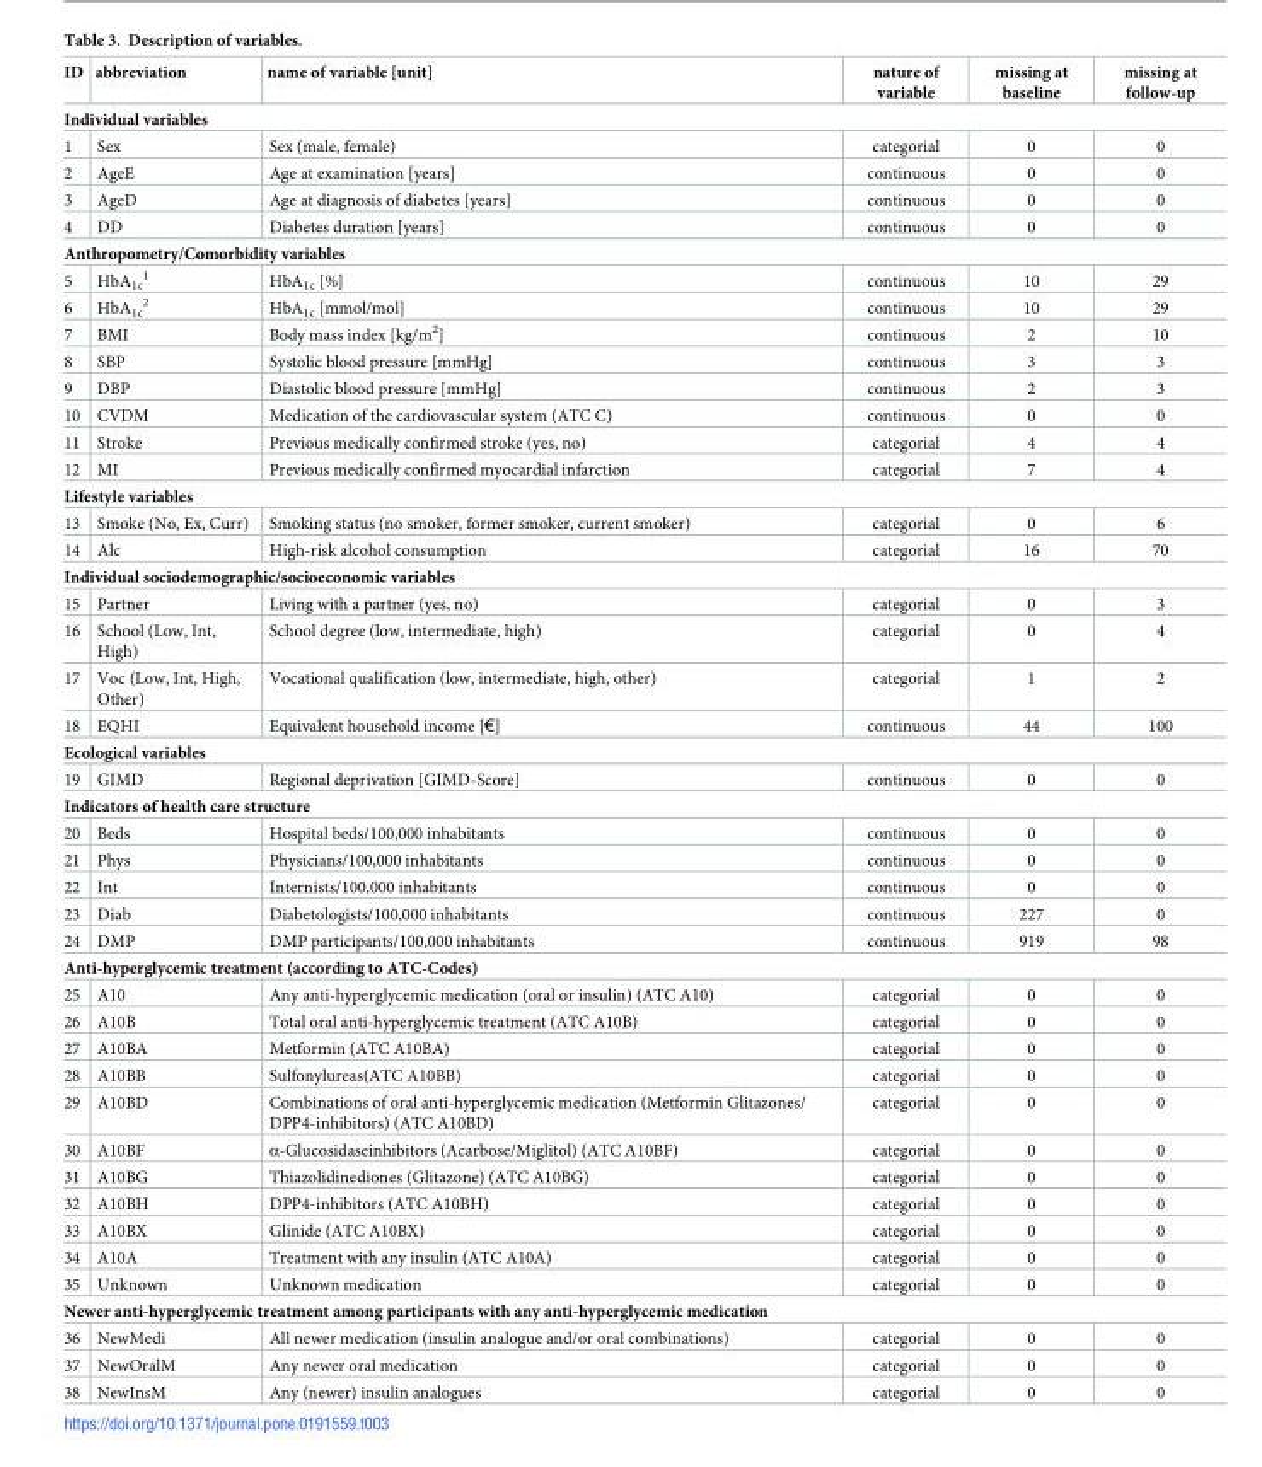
<table><thead><tr><td>ID</td><td>abbreviation</td><td>name of variable [unit]</td><td>nature of variable</td><td>missing at baseline</td><td>missing at follow-up</td></tr></thead><tbody><tr><td colspan="6">Individual variables</td></tr><tr><td>1</td><td>Sex</td><td>Sex (male, female)</td><td>categorial</td><td>0</td><td>0</td></tr><tr><td>2</td><td>AgeE</td><td>Age at examination [years]</td><td>continuous</td><td>0</td><td>0</td></tr><tr><td>3</td><td>AgeD</td><td>Age at diagnosis of diabetes [years]</td><td>continuous</td><td>0</td><td>0</td></tr><tr><td>4</td><td>DD</td><td>Diabetes duration [years]</td><td>continuous</td><td>0</td><td>0</td></tr><tr><td colspan="6">Anthropometry/Comorbidity variables</td></tr><tr><td>5</td><td>HbA<sub>1c</sub> <sup>1</sup></td><td>HbA<sub>1c</sub> [%]</td><td>continuous</td><td>10</td><td>29</td></tr><tr><td>6</td><td>HbA<sub>1c</sub> <sup>2</sup></td><td>HbA<sub>1c</sub> [mmol/mol]</td><td>continuous</td><td>10</td><td>29</td></tr><tr><td>7</td><td>BMI</td><td>Body mass index [kg/m<sup>2</sup>]</td><td>continuous</td><td>2</td><td>10</td></tr><tr><td>8</td><td>SBP</td><td>Systolic blood pressure [mmHg]</td><td>continuous</td><td>3</td><td>3</td></tr><tr><td>9</td><td>DBP</td><td>Diastolic blood pressure [mmHg]</td><td>continuous</td><td>2</td><td>3</td></tr><tr><td>10</td><td>CVDM</td><td>Medication of the cardiovascular system (ATC C)</td><td>continuous</td><td>0</td><td>0</td></tr><tr><td>11</td><td>Stroke</td><td>Previous medically confirmed stroke (yes, no)</td><td>categorial</td><td>4</td><td>4</td></tr><tr><td>12</td><td>MI</td><td>Previous medically confirmed myocardial infarction</td><td>categorial</td><td>7</td><td>4</td></tr><tr><td colspan="6">Lifestyle variables</td></tr><tr><td>13</td><td>Smoke (No, Ex, Curr)</td><td>Smoking status (no smoker, former smoker, current smoker)</td><td>categorial</td><td>0</td><td>6</td></tr><tr><td>14</td><td>Alc</td><td>High-risk alcohol consumption</td><td>categorial</td><td>16</td><td>70</td></tr><tr><td colspan="6">Individual sociodemographic/socioeconomic variables</td></tr><tr><td>15</td><td>Partner</td><td>Living with a partner (yes, no)</td><td>categorial</td><td>0</td><td>3</td></tr><tr><td>16</td><td>School (Low, Int, High)</td><td>School degree (low, intermediate, high)</td><td>categorial</td><td>0</td><td>4</td></tr><tr><td>17</td><td>Voc (Low, Int, High, Other)</td><td>Vocational qualification (low, intermediate, high, other)</td><td>categorial</td><td>1</td><td>2</td></tr><tr><td>18</td><td>EQHI</td><td>Equivalent household income [€]</td><td>continuous</td><td>44</td><td>100</td></tr><tr><td colspan="6">Ecological variables</td></tr><tr><td>19</td><td>GIMD</td><td>Regional deprivation [GIMD-Score]</td><td>continuous</td><td>0</td><td>0</td></tr><tr><td colspan="6">Indicators of health care structure</td></tr><tr><td>20</td><td>Beds</td><td>Hospital beds/100,000 inhabitants</td><td>continuous</td><td>0</td><td>0</td></tr><tr><td>21</td><td>Phys</td><td>Physicians/100,000 inhabitants</td><td>continuous</td><td>0</td><td>0</td></tr><tr><td>22</td><td>Int</td><td>Internists/100,000 inhabitants</td><td>continuous</td><td>0</td><td>0</td></tr><tr><td>23</td><td>Diab</td><td>Diabetologists/100,000 inhabitants</td><td>continuous</td><td>227</td><td>0</td></tr><tr><td>24</td><td>DMP</td><td>DMP participants/100,000 inhabitants</td><td>continuous</td><td>919</td><td>98</td></tr><tr><td colspan="6">Anti-hyperglycemic treatment (according to ATC-Codes)</td></tr><tr><td>25</td><td>A10</td><td>Any anti-hyperglycemic medication (oral or insulin) (ATC A10)</td><td>categorial</td><td>0</td><td>0</td></tr><tr><td>26</td><td>A10B</td><td>Total oral anti-hyperglycemic treatment (ATC A10B)</td><td>categorial</td><td>0</td><td>0</td></tr><tr><td>27</td><td>A10BA</td><td>Metformin (ATC A10BA)</td><td>categorial</td><td>0</td><td>0</td></tr><tr><td>28</td><td>A10BB</td><td>Sulfonylureas(ATC A10BB)</td><td>categorial</td><td>0</td><td>0</td></tr><tr><td>29</td><td>A10BD</td><td>Combinations of oral anti-hyperglycemic medication (Metformin Glitazones/ DPP4-inhibitors) (ATC A10BD)</td><td>categorial</td><td>0</td><td>0</td></tr><tr><td>30</td><td>A10BF</td><td>α-Glucosidaseinhibitors (Acarbose/Miglitol) (ATC A10BF)</td><td>categorial</td><td>0</td><td>0</td></tr><tr><td>31</td><td>A10BG</td><td>Thiazolidinediones (Glitazone) (ATC A10BG)</td><td>categorial</td><td>0</td><td>0</td></tr><tr><td>32</td><td>A10BH</td><td>DPP4-inhibitors (ATC A10BH)</td><td>categorial</td><td>0</td><td>0</td></tr><tr><td>33</td><td>A10BX</td><td>Glinide (ATC A10BX)</td><td>categorial</td><td>0</td><td>0</td></tr><tr><td>34</td><td>A10A</td><td>Treatment with any insulin (ATC A10A)</td><td>categorial</td><td>0</td><td>0</td></tr><tr><td>35</td><td>Unknown</td><td>Unknown medication</td><td>categorial</td><td>0</td><td>0</td></tr><tr><td colspan="6">Newer anti-hyperglycemic treatment among participants with any anti-hyperglycemic medication</td></tr><tr><td>36</td><td>NewMedi</td><td>All newer medication (insulin analogue and/or oral combinations)</td><td>categorial</td><td>0</td><td>0</td></tr><tr><td>37</td><td>NewOralM</td><td>Any newer oral medication</td><td>categorial</td><td>0</td><td>0</td></tr><tr><td>38</td><td>NewInsM</td><td>Any (newer) insulin analogues</td><td>categorial</td><td>0</td><td>0</td></tr></tbody></table>